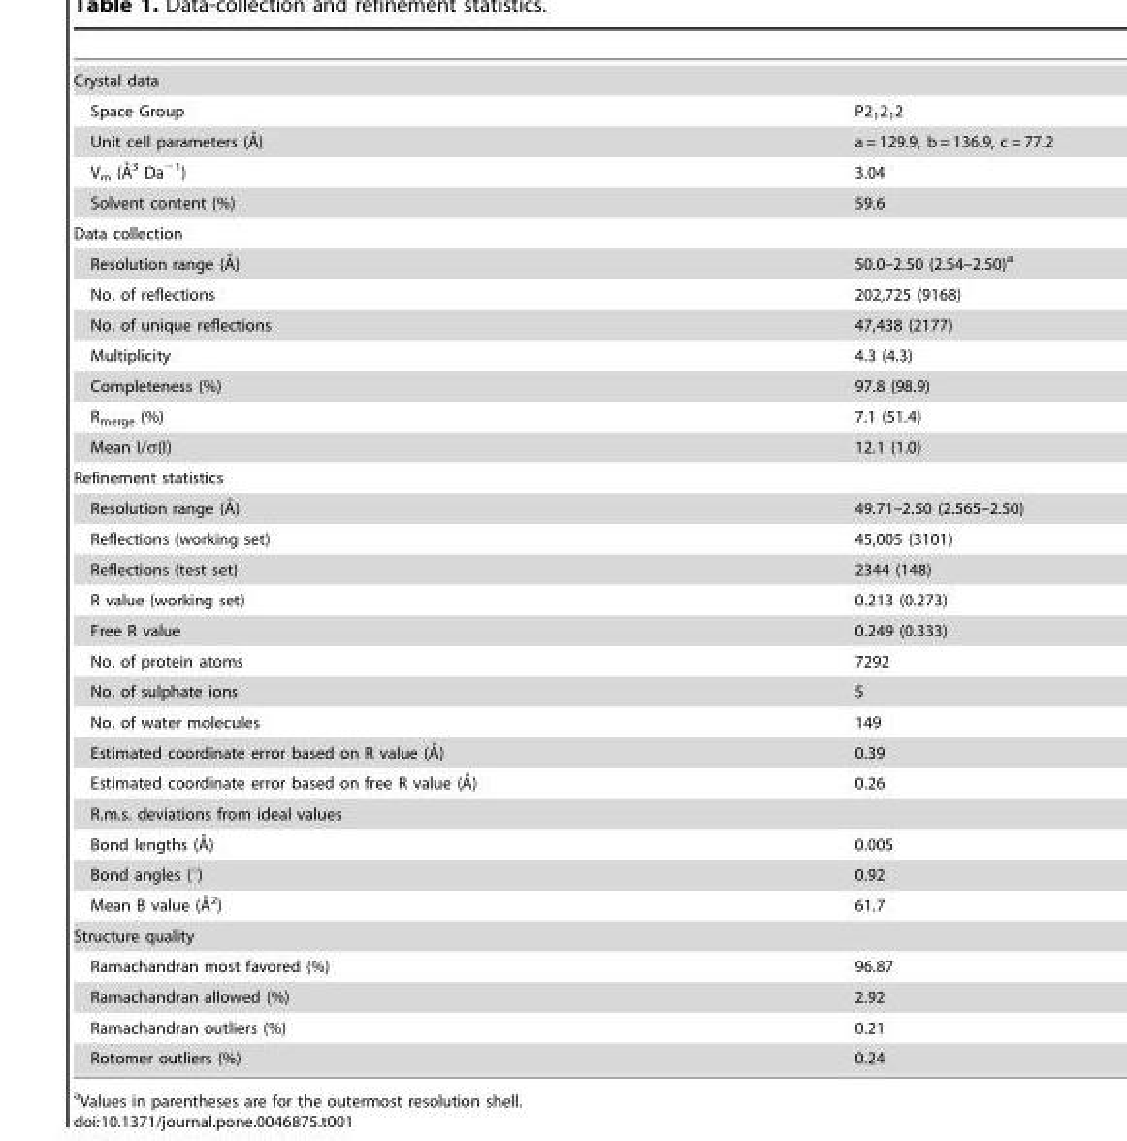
<table><tbody><tr><td colspan="2">Crystal data</td></tr><tr><td>Space Group</td><td>P2<sub>1</sub>2<sub>1</sub>2</td></tr><tr><td>Unit cell parameters (A˚)</td><td>a = 129.9, b = 136.9, c = 77.2</td></tr><tr><td>Vm (A˚3 Da21)</td><td>3.04</td></tr><tr><td>Solvent content (%)</td><td>59.6</td></tr><tr><td colspan="2">Data collection</td></tr><tr><td>Resolution range (A˚)</td><td>50.0–2.50 (2.54–2.50)<sup>a</sup></td></tr><tr><td>No. of reflections</td><td>202,725 (9168)</td></tr><tr><td>No. of unique reflections</td><td>47,438 (2177)</td></tr><tr><td>Multiplicity</td><td>4.3 (4.3)</td></tr><tr><td>Completeness (%)</td><td>97.8 (98.9)</td></tr><tr><td>R<sub>merge</sub> (%)</td><td>7.1 (51.4)</td></tr><tr><td>Mean I/σ(I)</td><td>12.1 (1.0)</td></tr><tr><td colspan="2">Refinement statistics</td></tr><tr><td>Resolution range (A˚)</td><td>49.71–2.50 (2.565–2.50)</td></tr><tr><td>Reflections (working set)</td><td>45,005 (3101)</td></tr><tr><td>Reflections (test set)</td><td>2344 (148)</td></tr><tr><td>R value (working set)</td><td>0.213 (0.273)</td></tr><tr><td>Free R value</td><td>0.249 (0.333)</td></tr><tr><td>No. of protein atoms</td><td>7292</td></tr><tr><td>No. of sulphate ions</td><td>5</td></tr><tr><td>No. of water molecules</td><td>149</td></tr><tr><td>Estimated coordinate error based on R value (A˚)</td><td>0.39</td></tr><tr><td>Estimated coordinate error based on free R value (A˚)</td><td>0.26</td></tr><tr><td colspan="2">R.m.s. deviations from ideal values</td></tr><tr><td>Bond lengths (A˚)</td><td>0.005</td></tr><tr><td>Bond angles (°)</td><td>0.92</td></tr><tr><td>Mean B value (A˚2)</td><td>61.7</td></tr><tr><td colspan="2">Structure quality</td></tr><tr><td>Ramachandran most favored (%)</td><td>96.87</td></tr><tr><td>Ramachandran allowed (%)</td><td>2.92</td></tr><tr><td>Ramachandran outliers (%)</td><td>0.21</td></tr><tr><td>Rotomer outliers (%)</td><td>0.24</td></tr></tbody></table>